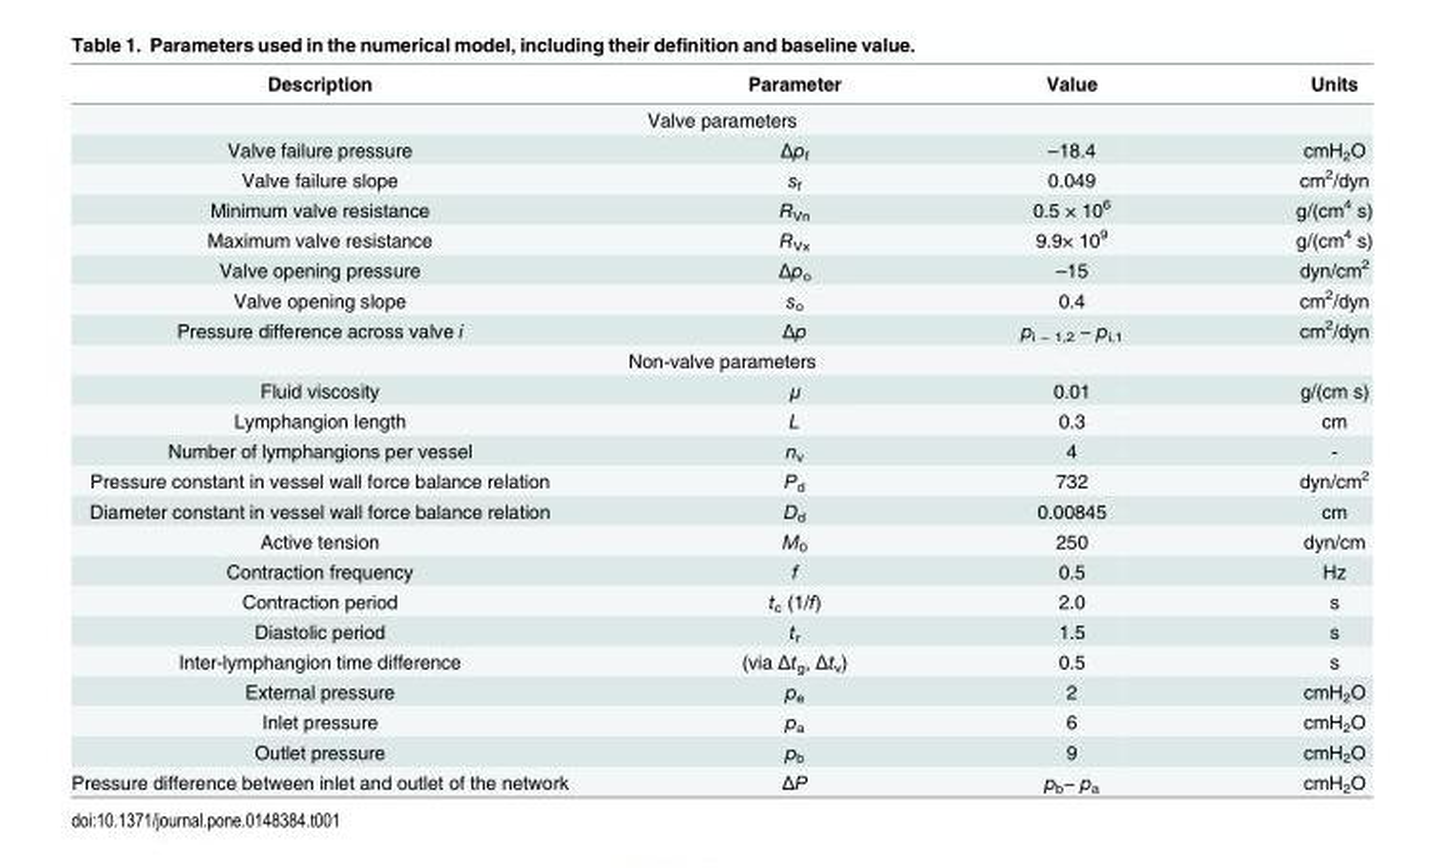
<table><thead><tr><td>Description</td><td>Parameter</td><td>Value</td><td>Units</td></tr></thead><tbody><tr><td colspan="4">Valve parameters</td></tr><tr><td>Valve failure pressure</td><td>Δp<sub>f</sub></td><td>–18.4</td><td>cmH<sub>2</sub>O</td></tr><tr><td>Valve failure slope</td><td>s<sub>f</sub></td><td>0.049</td><td>cm<sup>2</sup>/dyn</td></tr><tr><td>Minimum valve resistance</td><td>R<sub>Vn</sub></td><td>0.5 × 10<sup>6</sup></td><td>g/(cm<sup>4</sup> s)</td></tr><tr><td>Maximum valve resistance</td><td>R<sub>Vx</sub></td><td>9.9× 10<sup>9</sup></td><td>g/(cm<sup>4</sup> s)</td></tr><tr><td>Valve opening pressure</td><td>Δp<sub>o</sub></td><td>–15</td><td>dyn/cm<sup>2</sup></td></tr><tr><td>Valve opening slope</td><td>s<sub>o</sub></td><td>0.4</td><td>cm<sup>2</sup>/dyn</td></tr><tr><td>Pressure difference across valve i</td><td>Δp</td><td>p<sub>i − 1,2</sub> − p<sub>i,1</sub></td><td>cm<sup>2</sup>/dyn</td></tr><tr><td colspan="4">Non-valve parameters</td></tr><tr><td>Fluid viscosity</td><td>μ</td><td>0.01</td><td>g/(cm s)</td></tr><tr><td>Lymphangion length</td><td>L</td><td>0.3</td><td>cm</td></tr><tr><td>Number of lymphangions per vessel</td><td>n<sub>v</sub></td><td>4</td><td>-</td></tr><tr><td>Pressure constant in vessel wall force balance relation</td><td>P<sub>d</sub></td><td>732</td><td>dyn/cm<sup>2</sup></td></tr><tr><td>Diameter constant in vessel wall force balance relation</td><td>D<sub>d</sub></td><td>0.00845</td><td>cm</td></tr><tr><td>Active tension</td><td>M<sub>0</sub></td><td>250</td><td>dyn/cm</td></tr><tr><td>Contraction frequency</td><td>f</td><td>0.5</td><td>Hz</td></tr><tr><td>Contraction period</td><td>t<sub>c</sub> (1/f)</td><td>2.0</td><td>s</td></tr><tr><td>Diastolic period</td><td>t<sub>r</sub></td><td>1.5</td><td>s</td></tr><tr><td>Inter-lymphangion time difference</td><td>(via Δt<sub>g</sub>, Δt<sub>v</sub>)</td><td>0.5</td><td>s</td></tr><tr><td>External pressure</td><td>p<sub>e</sub></td><td>2</td><td>cmH<sub>2</sub>O</td></tr><tr><td>Inlet pressure</td><td>p<sub>a</sub></td><td>6</td><td>cmH<sub>2</sub>O</td></tr><tr><td>Outlet pressure</td><td>p<sub>b</sub></td><td>9</td><td>cmH<sub>2</sub>O</td></tr><tr><td>Pressure difference between inlet and outlet of the network</td><td>ΔP</td><td>p<sub>b</sub>− p<sub>a</sub></td><td>cmH<sub>2</sub>O</td></tr></tbody></table>